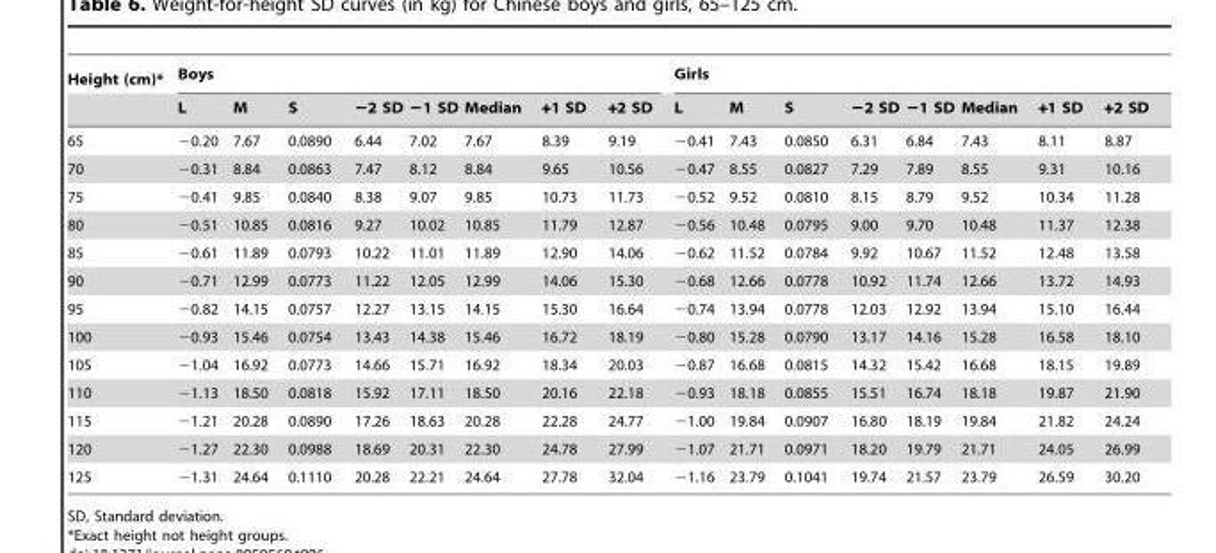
<table><thead><tr><td rowspan="2">Height (cm)*</td><td colspan="8">Boys</td><td colspan="8">Girls</td></tr><tr><td>L</td><td>M</td><td>S</td><td>−2 SD</td><td>−1 SD</td><td>Median</td><td>+1 SD</td><td>+2 SD</td><td>L</td><td>M</td><td>S</td><td>−2 SD</td><td>−1 SD</td><td>Median</td><td>+1 SD</td><td>+2 SD</td></tr></thead><tbody><tr><td>65</td><td>−0.20</td><td>7.67</td><td>0.0890</td><td>6.44</td><td>7.02</td><td>7.67</td><td>8.39</td><td>9.19</td><td>−0.41</td><td>7.43</td><td>0.0850</td><td>6.31</td><td>6.84</td><td>7.43</td><td>8.11</td><td>8.87</td></tr><tr><td>70</td><td>−0.31</td><td>8.84</td><td>0.0863</td><td>7.47</td><td>8.12</td><td>8.84</td><td>9.65</td><td>10.56</td><td>−0.47</td><td>8.55</td><td>0.0827</td><td>7.29</td><td>7.89</td><td>8.55</td><td>9.31</td><td>10.16</td></tr><tr><td>75</td><td>−0.41</td><td>9.85</td><td>0.0840</td><td>8.38</td><td>9.07</td><td>9.85</td><td>10.73</td><td>11.73</td><td>−0.52</td><td>9.52</td><td>0.0810</td><td>8.15</td><td>8.79</td><td>9.52</td><td>10.34</td><td>11.28</td></tr><tr><td>80</td><td>−0.51</td><td>10.85</td><td>0.0816</td><td>9.27</td><td>10.02</td><td>10.85</td><td>11.79</td><td>12.87</td><td>−0.56</td><td>10.48</td><td>0.0795</td><td>9.00</td><td>9.70</td><td>10.48</td><td>11.37</td><td>12.38</td></tr><tr><td>85</td><td>−0.61</td><td>11.89</td><td>0.0793</td><td>10.22</td><td>11.01</td><td>11.89</td><td>12.90</td><td>14.06</td><td>−0.62</td><td>11.52</td><td>0.0784</td><td>9.92</td><td>10.67</td><td>11.52</td><td>12.48</td><td>13.58</td></tr><tr><td>90</td><td>−0.71</td><td>12.99</td><td>0.0773</td><td>11.22</td><td>12.05</td><td>12.99</td><td>14.06</td><td>15.30</td><td>−0.68</td><td>12.66</td><td>0.0778</td><td>10.92</td><td>11.74</td><td>12.66</td><td>13.72</td><td>14.93</td></tr><tr><td>95</td><td>−0.82</td><td>14.15</td><td>0.0757</td><td>12.27</td><td>13.15</td><td>14.15</td><td>15.30</td><td>16.64</td><td>−0.74</td><td>13.94</td><td>0.0778</td><td>12.03</td><td>12.92</td><td>13.94</td><td>15.10</td><td>16.44</td></tr><tr><td>100</td><td>−0.93</td><td>15.46</td><td>0.0754</td><td>13.43</td><td>14.38</td><td>15.46</td><td>16.72</td><td>18.19</td><td>−0.80</td><td>15.28</td><td>0.0790</td><td>13.17</td><td>14.16</td><td>15.28</td><td>16.58</td><td>18.10</td></tr><tr><td>105</td><td>−1.04</td><td>16.92</td><td>0.0773</td><td>14.66</td><td>15.71</td><td>16.92</td><td>18.34</td><td>20.03</td><td>−0.87</td><td>16.68</td><td>0.0815</td><td>14.32</td><td>15.42</td><td>16.68</td><td>18.15</td><td>19.89</td></tr><tr><td>110</td><td>−1.13</td><td>18.50</td><td>0.0818</td><td>15.92</td><td>17.11</td><td>18.50</td><td>20.16</td><td>22.18</td><td>−0.93</td><td>18.18</td><td>0.0855</td><td>15.51</td><td>16.74</td><td>18.18</td><td>19.87</td><td>21.90</td></tr><tr><td>115</td><td>−1.21</td><td>20.28</td><td>0.0890</td><td>17.26</td><td>18.63</td><td>20.28</td><td>22.28</td><td>24.77</td><td>−1.00</td><td>19.84</td><td>0.0907</td><td>16.80</td><td>18.19</td><td>19.84</td><td>21.82</td><td>24.24</td></tr><tr><td>120</td><td>−1.27</td><td>22.30</td><td>0.0988</td><td>18.69</td><td>20.31</td><td>22.30</td><td>24.78</td><td>27.99</td><td>−1.07</td><td>21.71</td><td>0.0971</td><td>18.20</td><td>19.79</td><td>21.71</td><td>24.05</td><td>26.99</td></tr><tr><td>125</td><td>−1.31</td><td>24.64</td><td>0.1110</td><td>20.28</td><td>22.21</td><td>24.64</td><td>27.78</td><td>32.04</td><td>−1.16</td><td>23.79</td><td>0.1041</td><td>19.74</td><td>21.57</td><td>23.79</td><td>26.59</td><td>30.20</td></tr></tbody></table>